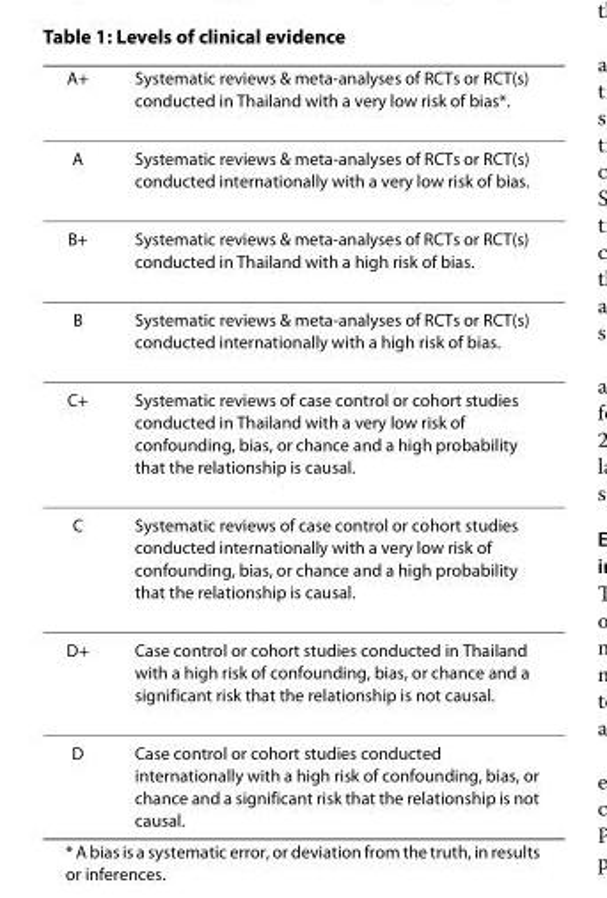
<table><thead><tr><td>A+</td><td>Systematic reviews &amp; meta-analyses of RCTs or RCT(s) conducted in Thailand with a very low risk of bias*.</td></tr></thead><tbody><tr><td>A</td><td>Systematic reviews &amp; meta-analyses of RCTs or RCT(s) conducted internationally with a very low risk of bias.</td></tr><tr><td>B+</td><td>Systematic reviews &amp; meta-analyses of RCTs or RCT(s) conducted in Thailand with a high risk of bias.</td></tr><tr><td>B</td><td>Systematic reviews &amp; meta-analyses of RCTs or RCT(s) conducted internationally with a high risk of bias.</td></tr><tr><td>C+</td><td>Systematic reviews of case control or cohort studies conducted in Thailand with a very low risk of confounding, bias, or chance and a high probability that the relationship is causal.</td></tr><tr><td>C</td><td>Systematic reviews of case control or cohort studies conducted internationally with a very low risk of confounding, bias, or chance and a high probability that the relationship is causal.</td></tr><tr><td>D+</td><td>Case control or cohort studies conducted in Thailand with a high risk of confounding, bias, or chance and a significant risk that the relationship is not causal.</td></tr><tr><td>D</td><td>Case control or cohort studies conducted internationally with a high risk of confounding, bias, or chance and a significant risk that the relationship is not causal.</td></tr></tbody></table>